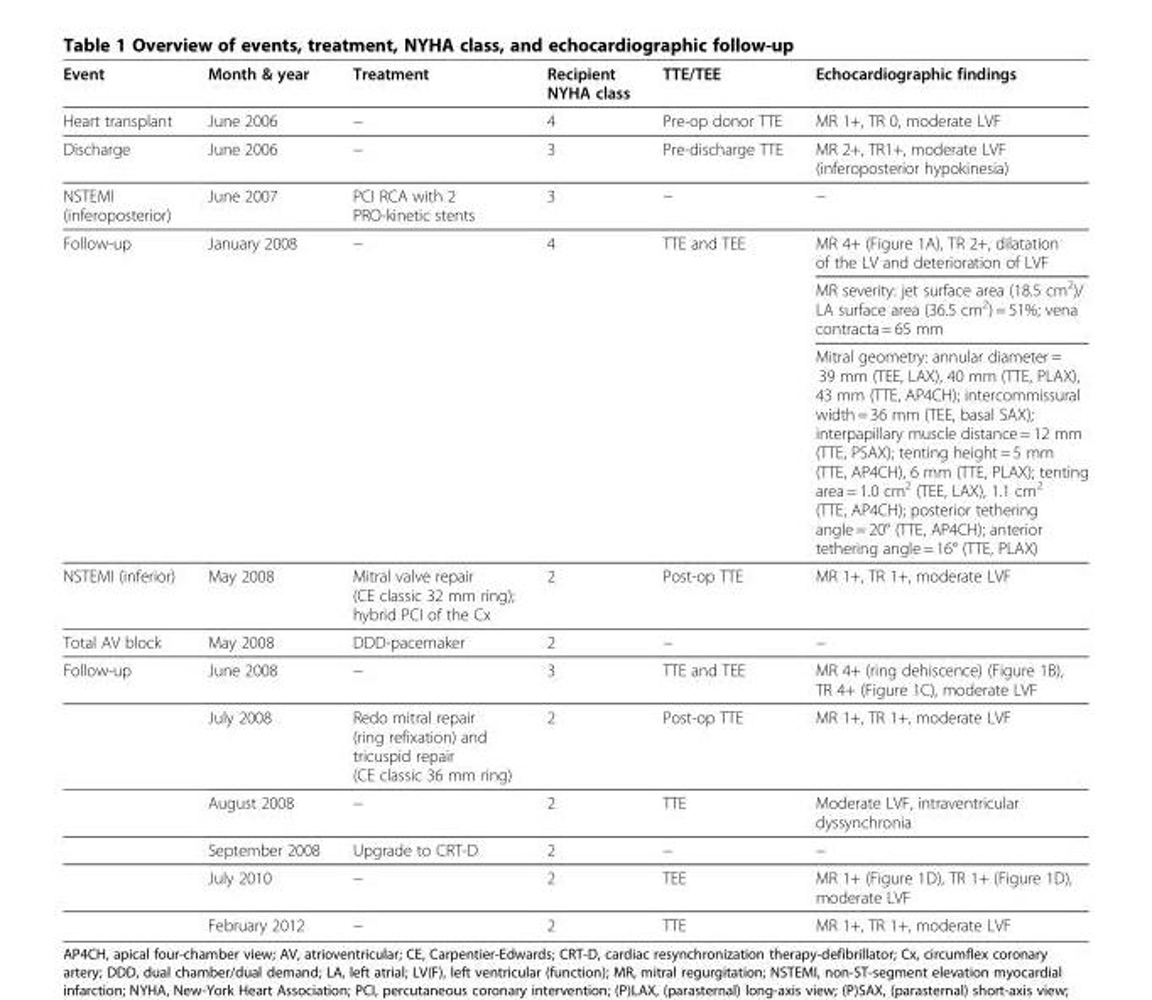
<table><thead><tr><td>Event</td><td>Month &amp; year</td><td>Treatment</td><td>Recipient NYHA class</td><td>TTE/TEE</td><td>Echocardiographic findings</td></tr></thead><tbody><tr><td>Heart transplant</td><td>June 2006</td><td>−</td><td>4</td><td>Pre-op donor TTE</td><td>MR 1+, TR 0, moderate LVF</td></tr><tr><td>Discharge</td><td>June 2006</td><td>−</td><td>3</td><td>Pre-discharge TTE</td><td>MR 2+, TR1+, moderate LVF (inferoposterior hypokinesia)</td></tr><tr><td>NSTEMI (inferoposterior)</td><td>June 2007</td><td>PCI RCA with 2 PRO-kinetic stents</td><td>3</td><td>−</td><td>−</td></tr><tr><td rowspan="3">Follow-up</td><td rowspan="3">January 2008</td><td rowspan="3">−</td><td rowspan="3">4</td><td rowspan="3">TTE and TEE</td><td>MR 4+ (Figure 1A), TR 2+, dilatation of the LV and deterioration of LVF</td></tr><tr><td>MR severity: jet surface area (18.5 cm<sup>2</sup>)/ LA surface area (36.5 cm<sup>2</sup>) = 51%; vena contracta = 65 mm</td></tr><tr><td>Mitral geometry: annular diameter = 39 mm (TEE, LAX), 40 mm (TTE, PLAX), 43 mm (TTE, AP4CH); intercommissural width = 36 mm (TEE, basal SAX); interpapillary muscle distance = 12 mm (TTE, PSAX); tenting height = 5 mm (TTE, AP4CH), 6 mm (TTE, PLAX); tenting area = 1.0 cm<sup>2</sup> (TEE, LAX), 1.1 cm<sup>2</sup> (TTE, AP4CH); posterior tethering angle = 20° (TTE, AP4CH); anterior tethering angle = 16° (TTE, PLAX)</td></tr><tr><td>NSTEMI (inferior)</td><td>May 2008</td><td>Mitral valve repair (CE classic 32 mm ring); hybrid PCI of the Cx</td><td>2</td><td>Post-op TTE</td><td>MR 1+, TR 1+, moderate LVF</td></tr><tr><td>Total AV block</td><td>May 2008</td><td>DDD-pacemaker</td><td>2</td><td>−</td><td>−</td></tr><tr><td rowspan="6">Follow-up</td><td>June 2008</td><td>−</td><td>3</td><td>TTE and TEE</td><td>MR 4+ (ring dehiscence) (Figure 1B), TR 4+ (Figure 1C), moderate LVF</td></tr><tr><td>July 2008</td><td>Redo mitral repair (ring refixation) and tricuspid repair (CE classic 36 mm ring)</td><td>2</td><td>Post-op TTE</td><td>MR 1+, TR 1+, moderate LVF</td></tr><tr><td>August 2008</td><td>−</td><td>2</td><td>TTE</td><td>Moderate LVF, intraventricular dyssynchronia</td></tr><tr><td>September 2008</td><td>Upgrade to CRT-D</td><td>2</td><td>−</td><td>−</td></tr><tr><td>July 2010</td><td>−</td><td>2</td><td>TEE</td><td>MR 1+ (Figure 1D), TR 1+ (Figure 1D), moderate LVF</td></tr><tr><td>February 2012</td><td>−</td><td>2</td><td>TTE</td><td>MR 1+, TR 1+, moderate LVF</td></tr></tbody></table>